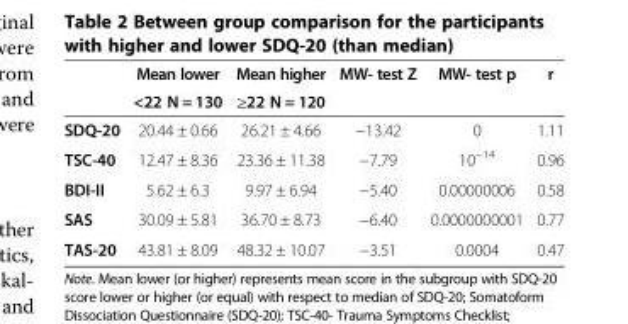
<table><thead><tr><td rowspan="2"></td><td rowspan="2">Mean lower &lt;22 N = 130</td><td rowspan="2">Mean higher ≥22 N = 120</td><td rowspan="2">MW- test Z</td><td rowspan="2">MW- test p</td><td rowspan="2">r</td></tr><tr></tr></thead><tbody><tr><td>SDQ-20</td><td>20.44 ± 0.66</td><td>26.21 ± 4.66</td><td>−13.42</td><td>0</td><td>1.11</td></tr><tr><td>TSC-40</td><td>12.47 ± 8.36</td><td>23.36 ± 11.38</td><td>−7.79</td><td>10<sup>−14</sup></td><td>0.96</td></tr><tr><td>BDI-II</td><td>5.62 ± 6.3</td><td>9.97 ± 6.94</td><td>−5.40</td><td>0.00000006</td><td>0.58</td></tr><tr><td>SAS</td><td>30.09 ± 5.81</td><td>36.70 ± 8.73</td><td>−6.40</td><td>0.0000000001</td><td>0.77</td></tr><tr><td>TAS-20</td><td>43.81 ± 8.09</td><td>48.32 ± 10.07</td><td>−3.51</td><td>0.0004</td><td>0.47</td></tr></tbody></table>